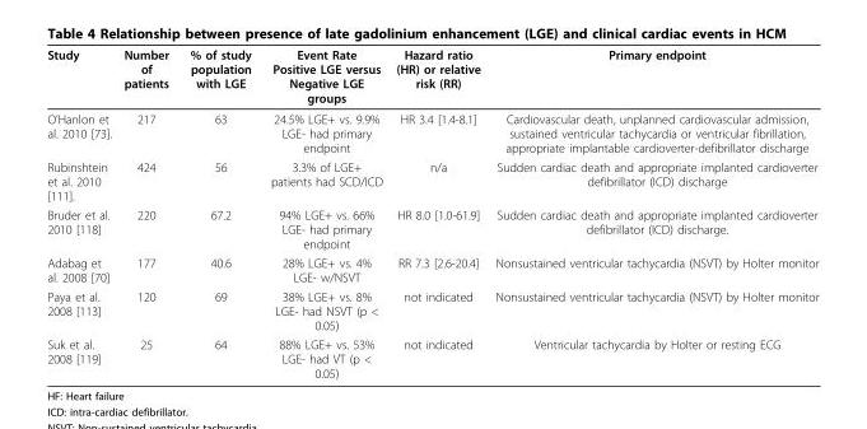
<table><thead><tr><td>Study</td><td>Number of patients</td><td>% of study population with LGE</td><td>Event Rate Positive LGE versus Negative LGE groups</td><td>Hazard ratio (HR) or relative risk (RR)</td><td>Primary endpoint</td></tr></thead><tbody><tr><td>O’Hanlon et al. 2010 [73].</td><td>217</td><td>63</td><td>24.5% LGE+ vs. 9.9% LGE- had primary endpoint</td><td>HR 3.4 [1.4-8.1]</td><td>Cardiovascular death, unplanned cardiovascular admission, sustained ventricular tachycardia or ventricular fibrillation, appropriate implantable cardioverter-defibrillator discharge</td></tr><tr><td>Rubinshtein et al. 2010 [111].</td><td>424</td><td>56</td><td>3.3% of LGE+ patients had SCD/ICD</td><td>n/a</td><td>Sudden cardiac death and appropriate implanted cardioverter defibrillator (ICD) discharge</td></tr><tr><td>Bruder et al. 2010 [118]</td><td>220</td><td>67.2</td><td>94% LGE+ vs. 66% LGE- had primary endpoint</td><td>HR 8.0 [1.0-61.9]</td><td>Sudden cardiac death and appropriate implanted cardioverter defibrillator (ICD) discharge.</td></tr><tr><td>Adabag et al. 2008 [70]</td><td>177</td><td>40.6</td><td>28% LGE+ vs. 4% LGE- w/NSVT</td><td>RR 7.3 [2.6-20.4]</td><td>Nonsustained ventricular tachycardia (NSVT) by Holter monitor</td></tr><tr><td>Paya et al. 2008 [113]</td><td>120</td><td>69</td><td>38% LGE+ vs. 8% LGE- had NSVT (p &lt; 0.05)</td><td>not indicated</td><td>Nonsustained ventricular tachycardia (NSVT) by Holter monitor</td></tr><tr><td>Suk et al. 2008 [119]</td><td>25</td><td>64</td><td>88% LGE+ vs. 53% LGE- had VT (p &lt; 0.05)</td><td>not indicated</td><td>Ventricular tachycardia by Holter or resting ECG</td></tr></tbody></table>